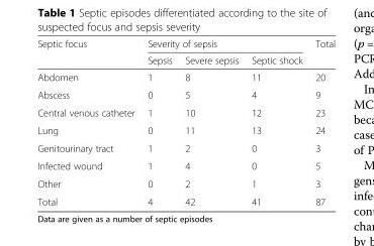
<table><thead><tr><td rowspan="2">Septic focus</td><td colspan="3">Severity of sepsis</td><td rowspan="2">Total</td></tr><tr><td>Sepsis</td><td>Severe sepsis</td><td>Septic shock</td></tr></thead><tbody><tr><td>Abdomen</td><td>1</td><td>8</td><td>11</td><td>20</td></tr><tr><td>Abscess</td><td>0</td><td>5</td><td>4</td><td>9</td></tr><tr><td>Central venous catheter</td><td>1</td><td>10</td><td>12</td><td>23</td></tr><tr><td>Lung</td><td>0</td><td>11</td><td>13</td><td>24</td></tr><tr><td>Genitourinary tract</td><td>1</td><td>2</td><td>0</td><td>3</td></tr><tr><td>Infected wound</td><td>1</td><td>4</td><td>0</td><td>5</td></tr><tr><td>Other</td><td>0</td><td>2</td><td>1</td><td>3</td></tr><tr><td>Total</td><td>4</td><td>42</td><td>41</td><td>87</td></tr></tbody></table>